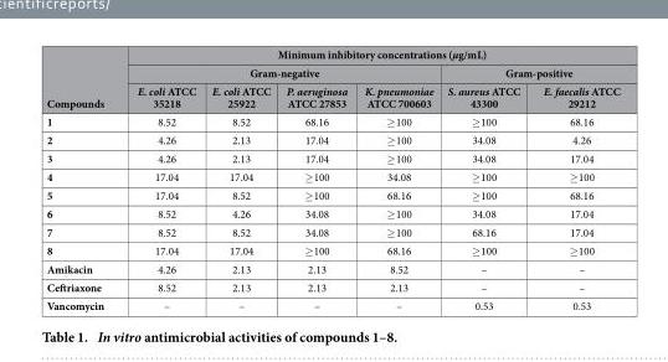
<table><thead><tr><td rowspan="3">Compounds</td><td colspan="6">Minimum inhibitory concentrations (μg/mL)</td></tr><tr><td colspan="4">Gram-negative</td><td colspan="2">Gram-positive</td></tr><tr><td>E. coli ATCC 35218</td><td>E. coli ATCC 25922</td><td>P. aeruginosa ATCC 27853</td><td>K. pneumoniae ATCC 700603</td><td>S. aureus ATCC 43300</td><td>E. faecalis ATCC 29212</td></tr></thead><tbody><tr><td>1</td><td>8.52</td><td>8.52</td><td>68.16</td><td>≥ 100</td><td>≥ 100</td><td>68.16</td></tr><tr><td>2</td><td>4.26</td><td>2.13</td><td>17.04</td><td>≥ 100</td><td>34.08</td><td>4.26</td></tr><tr><td>3</td><td>4.26</td><td>2.13</td><td>17.04</td><td>≥ 100</td><td>34.08</td><td>17.04</td></tr><tr><td>4</td><td>17.04</td><td>17.04</td><td>≥ 100</td><td>34.08</td><td>≥ 100</td><td>≥ 100</td></tr><tr><td>5</td><td>17.04</td><td>8.52</td><td>≥ 100</td><td>68.16</td><td>≥ 100</td><td>68.16</td></tr><tr><td>6</td><td>8.52</td><td>4.26</td><td>34.08</td><td>≥ 100</td><td>34.08</td><td>17.04</td></tr><tr><td>7</td><td>8.52</td><td>8.52</td><td>34.08</td><td>≥ 100</td><td>68.16</td><td>17.04</td></tr><tr><td>8</td><td>17.04</td><td>17.04</td><td>≥ 100</td><td>68.16</td><td>≥ 100</td><td>≥ 100</td></tr><tr><td>Amikacin</td><td>4.26</td><td>2.13</td><td>2.13</td><td>8.52</td><td>–</td><td>–</td></tr><tr><td>Ceftriaxone</td><td>8.52</td><td>2.13</td><td>2.13</td><td>2.13</td><td>–</td><td>–</td></tr><tr><td>Vancomycin</td><td>–</td><td>–</td><td>–</td><td>–</td><td>0.53</td><td>0.53</td></tr></tbody></table>